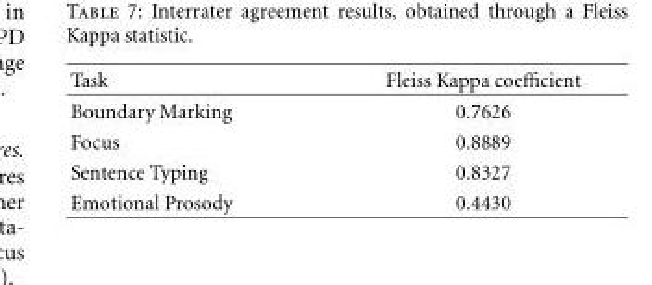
<table><thead><tr><td>Task</td><td>Fleiss Kappa coefficient</td></tr></thead><tbody><tr><td>Boundary Marking</td><td>0.7626</td></tr><tr><td>Focus</td><td>0.8889</td></tr><tr><td>Sentence Typing</td><td>0.8327</td></tr><tr><td>Emotional Prosody</td><td>0.4430</td></tr></tbody></table>